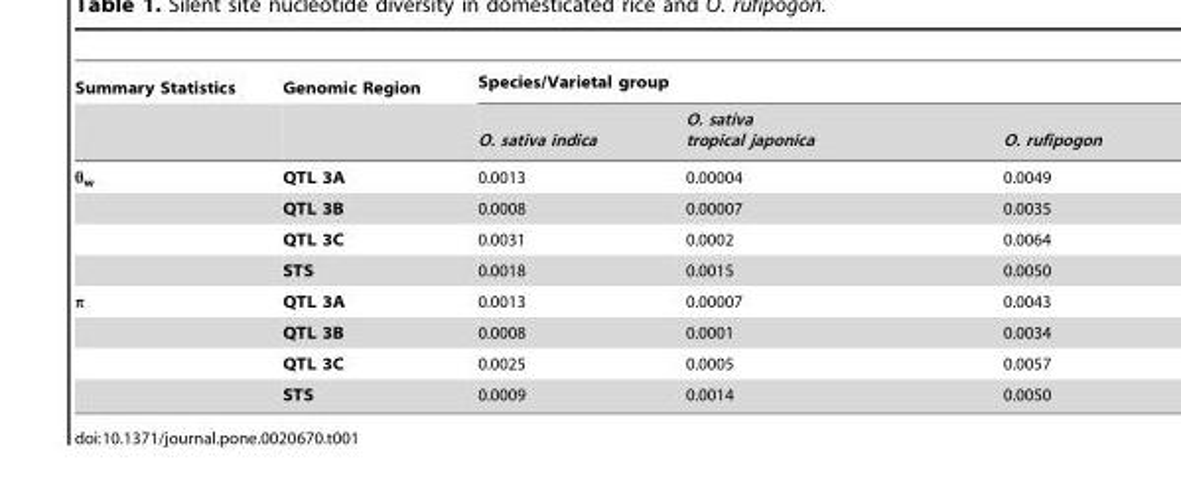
<table><thead><tr><td rowspan="2">Summary Statistics</td><td rowspan="2">Genomic Region</td><td colspan="3">Species/Varietal group</td></tr><tr><td>O. sativa indica</td><td>O. sativa tropical japonica</td><td>O. rufipogon</td></tr></thead><tbody><tr><td rowspan="4">θ<sub>w</sub></td><td>QTL 3A</td><td>0.0013</td><td>0.00004</td><td>0.0049</td></tr><tr><td>QTL 3B</td><td>0.0008</td><td>0.00007</td><td>0.0035</td></tr><tr><td>QTL 3C</td><td>0.0031</td><td>0.0002</td><td>0.0064</td></tr><tr><td>STS</td><td>0.0018</td><td>0.0015</td><td>0.0050</td></tr><tr><td rowspan="4">π</td><td>QTL 3A</td><td>0.0013</td><td>0.00007</td><td>0.0043</td></tr><tr><td>QTL 3B</td><td>0.0008</td><td>0.0001</td><td>0.0034</td></tr><tr><td>QTL 3C</td><td>0.0025</td><td>0.0005</td><td>0.0057</td></tr><tr><td>STS</td><td>0.0009</td><td>0.0014</td><td>0.0050</td></tr></tbody></table>